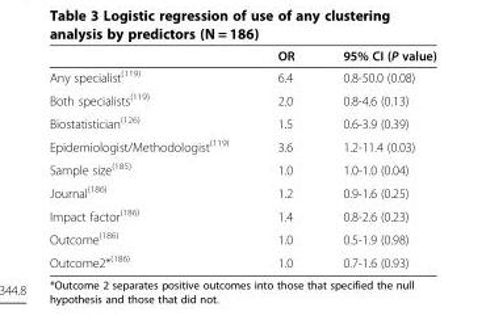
<table><thead><tr><td></td><td>OR</td><td>95% CI (P value)</td></tr></thead><tbody><tr><td>Any specialist<sup>(119)</sup></td><td>6.4</td><td>0.8-50.0 (0.08)</td></tr><tr><td>Both specialists<sup>(119)</sup></td><td>2.0</td><td>0.8-4.6 (0.13)</td></tr><tr><td>Biostatistician<sup>(126)</sup></td><td>1.5</td><td>0.6-3.9 (0.39)</td></tr><tr><td>Epidemiologist/Methodologist<sup>(119)</sup></td><td>3.6</td><td>1.2-11.4 (0.03)</td></tr><tr><td>Sample size<sup>(185)</sup></td><td>1.0</td><td>1.0-1.0 (0.04)</td></tr><tr><td>Journal<sup>(186)</sup></td><td>1.2</td><td>0.9-1.6 (0.25)</td></tr><tr><td>Impact factor<sup>(186)</sup></td><td>1.4</td><td>0.8-2.6 (0.23)</td></tr><tr><td>Outcome<sup>(186)</sup></td><td>1.0</td><td>0.5-1.9 (0.98)</td></tr><tr><td>Outcome2*<sup>(186)</sup></td><td>1.0</td><td>0.7-1.6 (0.93)</td></tr></tbody></table>